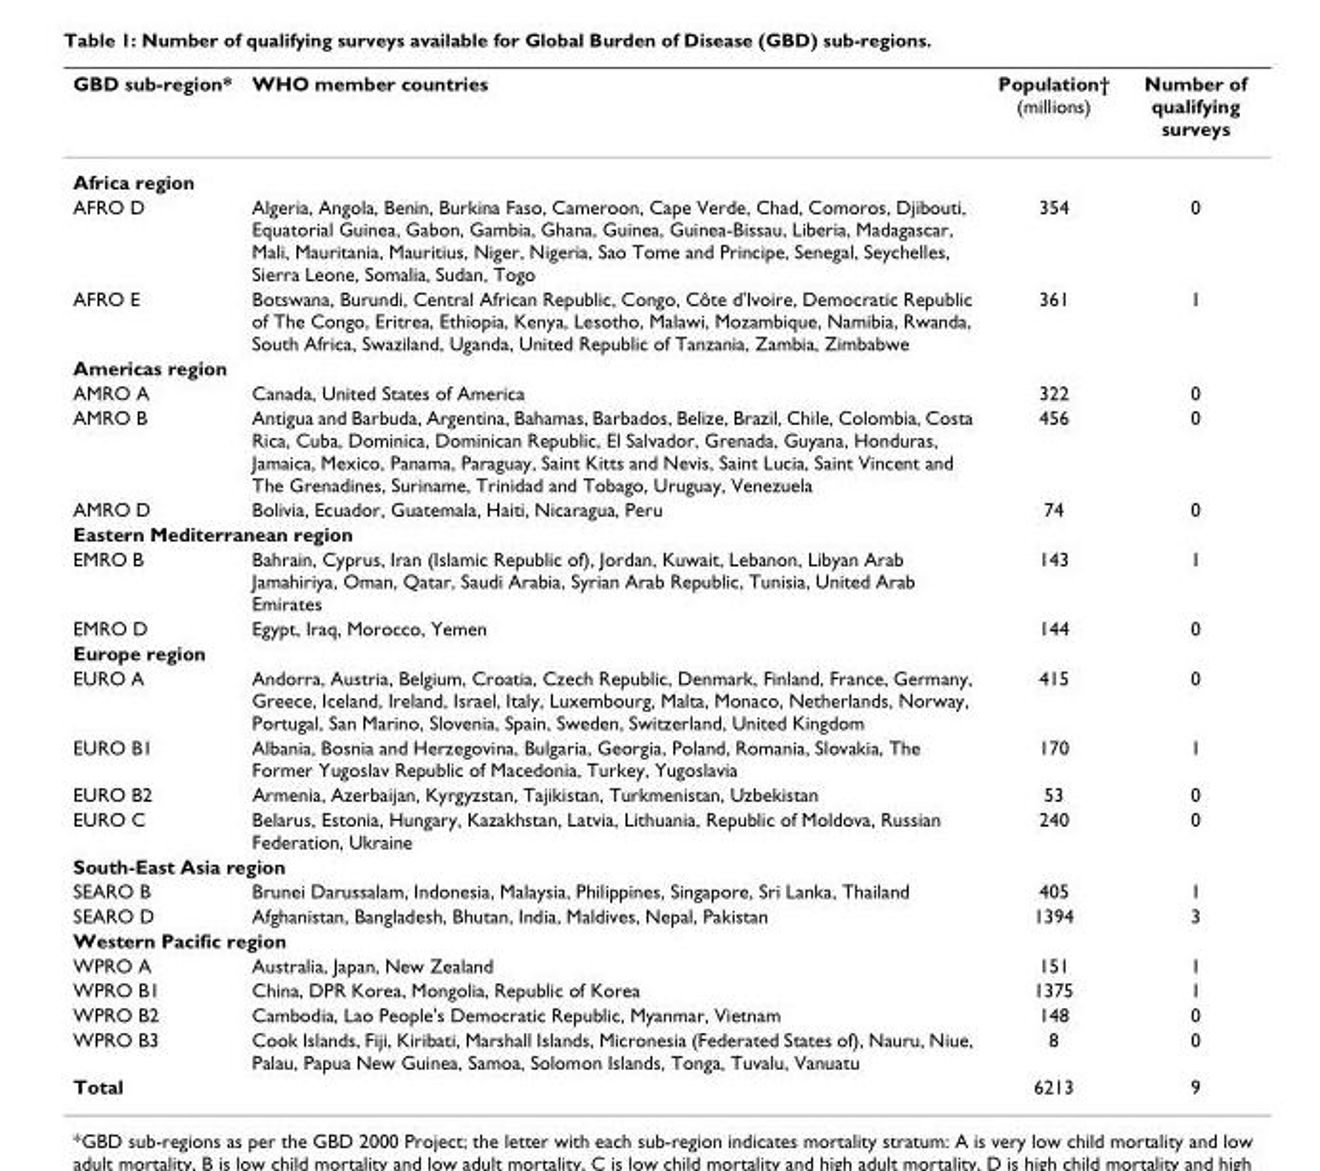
<table><thead><tr><td>GBD sub-region*</td><td>WHO member countries</td><td>Population† (millions)</td><td>Number of qualifying surveys</td></tr></thead><tbody><tr><td colspan="4">Africa region</td></tr><tr><td>AFRO D</td><td>Algeria, Angola, Benin, Burkina Faso, Cameroon, Cape Verde, Chad, Comoros, Djibouti, Equatorial Guinea, Gabon, Gambia, Ghana, Guinea, Guinea-Bissau, Liberia, Madagascar, Mali, Mauritania, Mauritius, Niger, Nigeria, Sao Tome and Principe, Senegal, Seychelles, Sierra Leone, Somalia, Sudan, Togo</td><td>354</td><td>0</td></tr><tr><td>AFRO E</td><td>Botswana, Burundi, Central African Republic, Congo, Côte d&#x27;Ivoire, Democratic Republic of The Congo, Eritrea, Ethiopia, Kenya, Lesotho, Malawi, Mozambique, Namibia, Rwanda, South Africa, Swaziland, Uganda, United Republic of Tanzania, Zambia, Zimbabwe</td><td>361</td><td>1</td></tr><tr><td colspan="4">Americas region</td></tr><tr><td>AMRO A</td><td>Canada, United States of America</td><td>322</td><td>0</td></tr><tr><td>AMRO B</td><td>Antigua and Barbuda, Argentina, Bahamas, Barbados, Belize, Brazil, Chile, Colombia, Costa Rica, Cuba, Dominica, Dominican Republic, El Salvador, Grenada, Guyana, Honduras, Jamaica, Mexico, Panama, Paraguay, Saint Kitts and Nevis, Saint Lucia, Saint Vincent and The Grenadines, Suriname, Trinidad and Tobago, Uruguay, Venezuela</td><td>456</td><td>0</td></tr><tr><td>AMRO D</td><td>Bolivia, Ecuador, Guatemala, Haiti, Nicaragua, Peru</td><td>74</td><td>0</td></tr><tr><td colspan="4">Eastern Mediterranean region</td></tr><tr><td>EMRO B</td><td>Bahrain, Cyprus, Iran (Islamic Republic of), Jordan, Kuwait, Lebanon, Libyan Arab Jamahiriya, Oman, Qatar, Saudi Arabia, Syrian Arab Republic, Tunisia, United Arab Emirates</td><td>143</td><td>1</td></tr><tr><td>EMRO D</td><td>Egypt, Iraq, Morocco, Yemen</td><td>144</td><td>0</td></tr><tr><td colspan="4">Europe region</td></tr><tr><td>EURO A</td><td>Andorra, Austria, Belgium, Croatia, Czech Republic, Denmark, Finland, France, Germany, Greece, Iceland, Ireland, Israel, Italy, Luxembourg, Malta, Monaco, Netherlands, Norway, Portugal, San Marino, Slovenia, Spain, Sweden, Switzerland, United Kingdom</td><td>415</td><td>0</td></tr><tr><td>EURO B1</td><td>Albania, Bosnia and Herzegovina, Bulgaria, Georgia, Poland, Romania, Slovakia, The Former Yugoslav Republic of Macedonia, Turkey, Yugoslavia</td><td>170</td><td>1</td></tr><tr><td>EURO B2</td><td>Armenia, Azerbaijan, Kyrgyzstan, Tajikistan, Turkmenistan, Uzbekistan</td><td>53</td><td>0</td></tr><tr><td>EURO C</td><td>Belarus, Estonia, Hungary, Kazakhstan, Latvia, Lithuania, Republic of Moldova, Russian Federation, Ukraine</td><td>240</td><td>0</td></tr><tr><td colspan="4">South-East Asia region</td></tr><tr><td>SEARO B</td><td>Brunei Darussalam, Indonesia, Malaysia, Philippines, Singapore, Sri Lanka, Thailand</td><td>405</td><td>1</td></tr><tr><td>SEARO D</td><td>Afghanistan, Bangladesh, Bhutan, India, Maldives, Nepal, Pakistan</td><td>1394</td><td>3</td></tr><tr><td colspan="4">Western Pacific region</td></tr><tr><td>WPRO A</td><td>Australia, Japan, New Zealand</td><td>151</td><td>1</td></tr><tr><td>WPRO B1</td><td>China, DPR Korea, Mongolia, Republic of Korea</td><td>1375</td><td>1</td></tr><tr><td>WPRO B2</td><td>Cambodia, Lao People&#x27;s Democratic Republic, Myanmar, Vietnam</td><td>148</td><td>0</td></tr><tr><td>WPRO B3</td><td>Cook Islands, Fiji, Kiribati, Marshall Islands, Micronesia (Federated States of), Nauru, Niue, Palau, Papua New Guinea, Samoa, Solomon Islands, Tonga, Tuvalu, Vanuatu</td><td>8</td><td>0</td></tr><tr><td>Total</td><td></td><td>6213</td><td>9</td></tr></tbody></table>